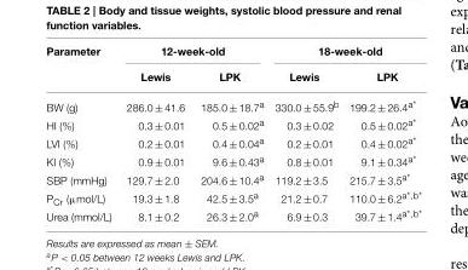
<table><thead><tr><td rowspan="2">Parameter</td><td colspan="2">12-week-old</td><td colspan="2">18-week-old</td></tr><tr><td>Lewis</td><td>LPK</td><td>Lewis</td><td>LPK</td></tr></thead><tbody><tr><td>BW (g)</td><td>286.0 ± 41.6</td><td>185.0 ± 18.7<sup>a</sup></td><td>330.0 ± 55.9<sup>b</sup></td><td>199.2 ± 26.4<sup>a*</sup></td></tr><tr><td>HI (%)</td><td>0.3 ± 0.01</td><td>0.5 ± 0.02<sup>a</sup></td><td>0.3 ± 0.02</td><td>0.5 ± 0.02<sup>a*</sup></td></tr><tr><td>LVI (%)</td><td>0.2 ± 0.01</td><td>0.4 ± 0.04<sup>a</sup></td><td>0.2 ± 0.01</td><td>0.4 ± 0.02<sup>a*</sup></td></tr><tr><td>KI (%)</td><td>0.9 ± 0.01</td><td>9.6 ± 0.43<sup>a</sup></td><td>0.8 ± 0.01</td><td>9.1 ± 0.34<sup>a*</sup></td></tr><tr><td>SBP (mmHg)</td><td>129.7 ± 2.0</td><td>204.6 ± 10.4<sup>a</sup></td><td>119.2 ± 3.5</td><td>215.7 ± 3.5<sup>a*</sup></td></tr><tr><td>P<sub>Cr</sub> (µmol/L)</td><td>19.3 ± 1.8</td><td>42.5 ± 3.5<sup>a</sup></td><td>21.2 ± 0.7</td><td>110.0 ± 6.2<sup>a*,b*</sup></td></tr><tr><td>Urea (mmol/L)</td><td>8.1 ± 0.2</td><td>26.3 ± 2.0<sup>a</sup></td><td>6.9 ± 0.3</td><td>39.7 ± 1.4<sup>a*,b*</sup></td></tr></tbody></table>